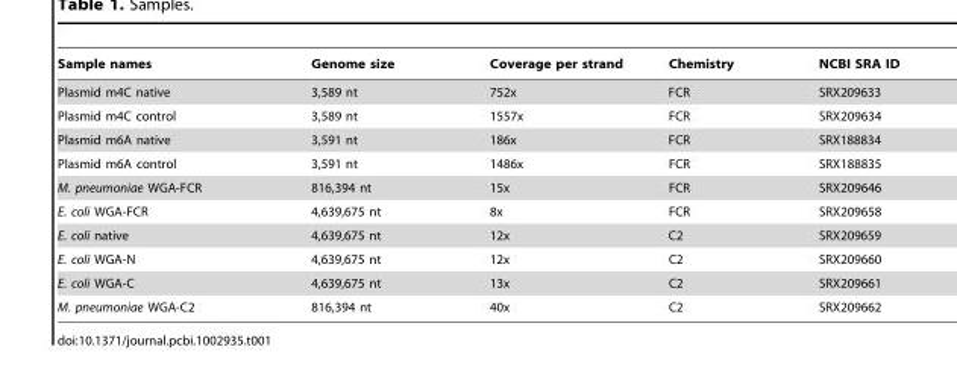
<table><thead><tr><td>Sample names</td><td>Genome size</td><td>Coverage per strand</td><td>Chemistry</td><td>NCBI SRA ID</td></tr></thead><tbody><tr><td>Plasmid m4C native</td><td>3,589 nt</td><td>752x</td><td>FCR</td><td>SRX209633</td></tr><tr><td>Plasmid m4C control</td><td>3,589 nt</td><td>1557x</td><td>FCR</td><td>SRX209634</td></tr><tr><td>Plasmid m6A native</td><td>3,591 nt</td><td>186x</td><td>FCR</td><td>SRX188834</td></tr><tr><td>Plasmid m6A control</td><td>3,591 nt</td><td>1486x</td><td>FCR</td><td>SRX188835</td></tr><tr><td>M. pneumoniae WGA-FCR</td><td>816,394 nt</td><td>15x</td><td>FCR</td><td>SRX209646</td></tr><tr><td>E. coli WGA-FCR</td><td>4,639,675 nt</td><td>8x</td><td>FCR</td><td>SRX209658</td></tr><tr><td>E. coli native</td><td>4,639,675 nt</td><td>12x</td><td>C2</td><td>SRX209659</td></tr><tr><td>E. coli WGA-N</td><td>4,639,675 nt</td><td>12x</td><td>C2</td><td>SRX209660</td></tr><tr><td>E. coli WGA-C</td><td>4,639,675 nt</td><td>13x</td><td>C2</td><td>SRX209661</td></tr><tr><td>M. pneumoniae WGA-C2</td><td>816,394 nt</td><td>40x</td><td>C2</td><td>SRX209662</td></tr></tbody></table>